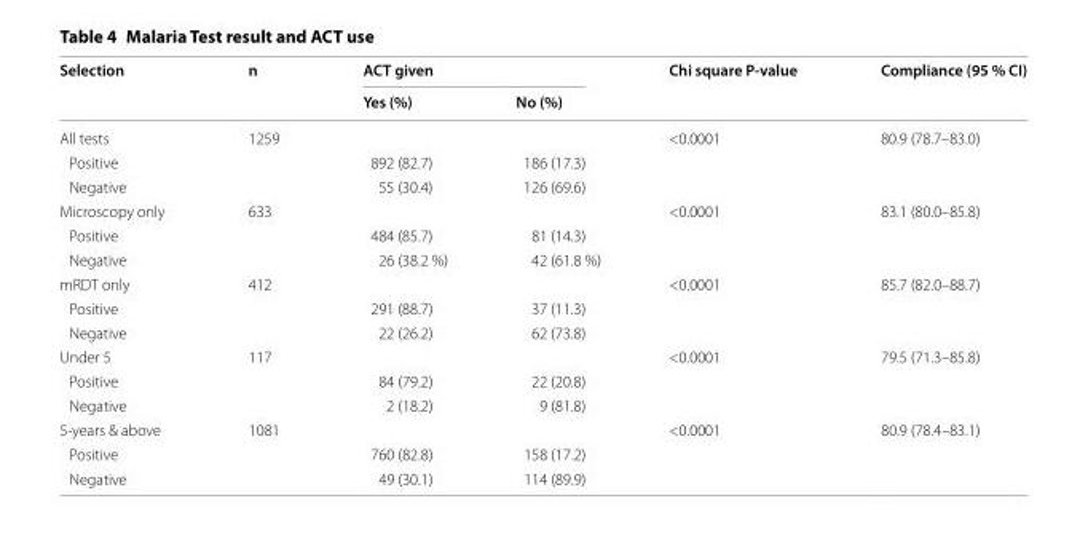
<table><thead><tr><td rowspan="2">Selection</td><td rowspan="2">n</td><td colspan="2">ACT given</td><td rowspan="2">Chi square P‑value</td><td rowspan="2">Compliance (95 % CI)</td></tr><tr><td>Yes (%)</td><td>No (%)</td></tr></thead><tbody><tr><td>All tests</td><td>1259</td><td></td><td></td><td>&lt;0.0001</td><td>80.9 (78.7–83.0)</td></tr><tr><td>Positive</td><td></td><td>892 (82.7)</td><td>186 (17.3)</td><td></td><td></td></tr><tr><td>Negative</td><td></td><td>55 (30.4)</td><td>126 (69.6)</td><td></td><td></td></tr><tr><td>Microscopy only</td><td>633</td><td></td><td></td><td>&lt;0.0001</td><td>83.1 (80.0–85.8)</td></tr><tr><td>Positive</td><td></td><td>484 (85.7)</td><td>81 (14.3)</td><td></td><td></td></tr><tr><td>Negative</td><td></td><td>26 (38.2 %)</td><td>42 (61.8 %)</td><td></td><td></td></tr><tr><td>mRDT only</td><td>412</td><td></td><td></td><td>&lt;0.0001</td><td>85.7 (82.0–88.7)</td></tr><tr><td>Positive</td><td></td><td>291 (88.7)</td><td>37 (11.3)</td><td></td><td></td></tr><tr><td>Negative</td><td></td><td>22 (26.2)</td><td>62 (73.8)</td><td></td><td></td></tr><tr><td>Under 5</td><td>117</td><td></td><td></td><td>&lt;0.0001</td><td>79.5 (71.3–85.8)</td></tr><tr><td>Positive</td><td></td><td>84 (79.2)</td><td>22 (20.8)</td><td></td><td></td></tr><tr><td>Negative</td><td></td><td>2 (18.2)</td><td>9 (81.8)</td><td></td><td></td></tr><tr><td>5-years &amp; above</td><td>1081</td><td></td><td></td><td>&lt;0.0001</td><td>80.9 (78.4–83.1)</td></tr><tr><td>Positive</td><td></td><td>760 (82.8)</td><td>158 (17.2)</td><td></td><td></td></tr><tr><td>Negative</td><td></td><td>49 (30.1)</td><td>114 (89.9)</td><td></td><td></td></tr></tbody></table>